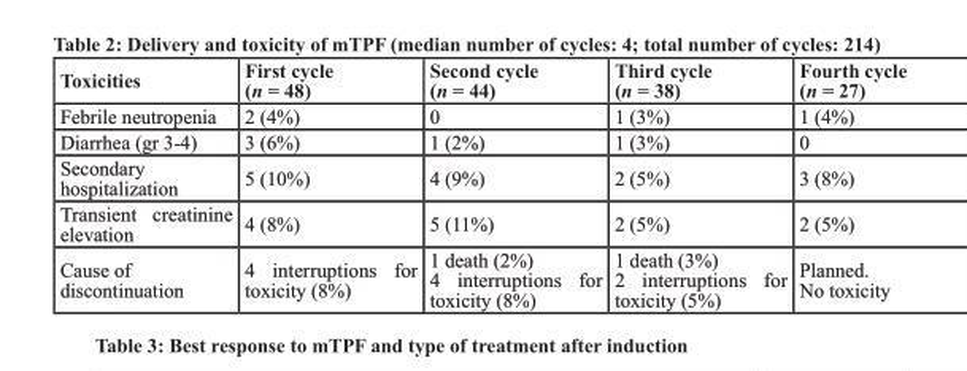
<table><thead><tr><td>Toxicities</td><td>First cycle (n = 48)</td><td>Second cycle (n = 44)</td><td>Third cycle (n = 38)</td><td>Fourth cycle (n = 27)</td></tr></thead><tbody><tr><td>Febrile neutropenia</td><td>2 (4%)</td><td>0</td><td>1 (3%)</td><td>1 (4%)</td></tr><tr><td>Diarrhea (gr 3-4)</td><td>3 (6%)</td><td>1 (2%)</td><td>1 (3%)</td><td>0</td></tr><tr><td>Secondary hospitalization</td><td>5 (10%)</td><td>4 (9%)</td><td>2 (5%)</td><td>3 (8%)</td></tr><tr><td>Transient creatinine elevation</td><td>4 (8%)</td><td>5 (11%)</td><td>2 (5%)</td><td>2 (5%)</td></tr><tr><td>Cause of discontinuation</td><td>4 interruptions for toxicity (8%)</td><td>1 death (2%) 4 interruptions for toxicity (8%)</td><td>1 death (3%) 2 interruptions for toxicity (5%)</td><td>Planned. No toxicity</td></tr></tbody></table>